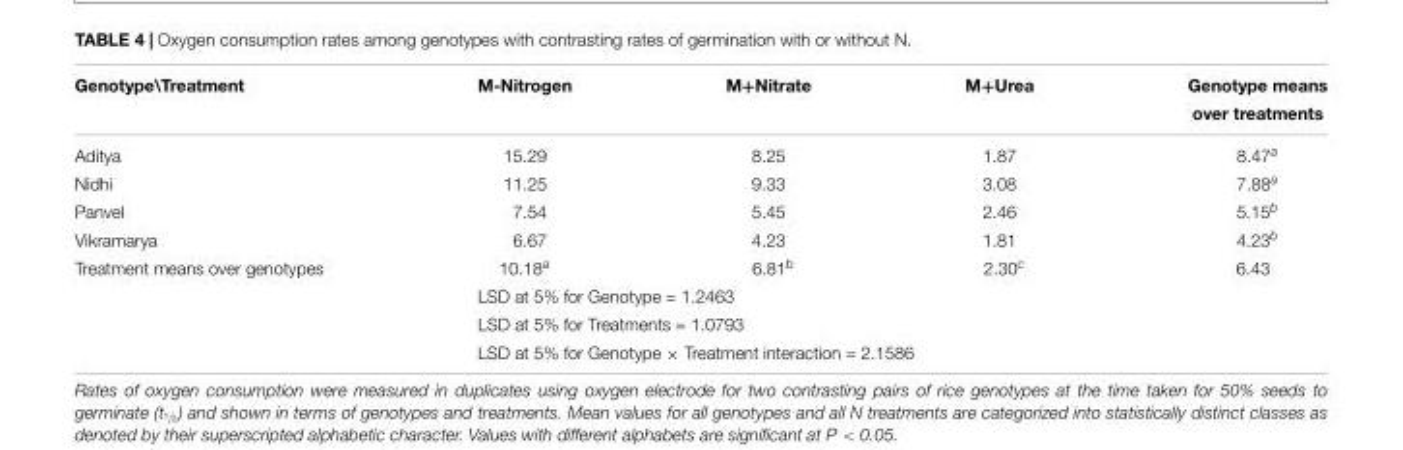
<table><thead><tr><td>Genotype\Treatment</td><td>M-Nitrogen</td><td>M+Nitrate</td><td>M+Urea</td><td>Genotype means over treatments</td></tr></thead><tbody><tr><td>Aditya</td><td>15.29</td><td>8.25</td><td>1.87</td><td>8.47<sup>a</sup></td></tr><tr><td>Nidhi</td><td>11.25</td><td>9.33</td><td>3.08</td><td>7.88<sup>a</sup></td></tr><tr><td>Panvel</td><td>7.54</td><td>5.45</td><td>2.46</td><td>5.15<sup>b</sup></td></tr><tr><td>Vikramarya</td><td>6.67</td><td>4.23</td><td>1.81</td><td>4.23<sup>b</sup></td></tr><tr><td rowspan="4">Treatment means over genotypes</td><td>10.18<sup>a</sup></td><td>6.81<sup>b</sup></td><td>2.30<sup>c</sup></td><td>6.43</td></tr><tr><td colspan="4">LSD at 5% for Genotype = 1.2463</td></tr><tr><td colspan="4">LSD at 5% for Treatments = 1.0793</td></tr><tr><td colspan="4">LSD at 5% for Genotype × Treatment interaction = 2.1586</td></tr></tbody></table>